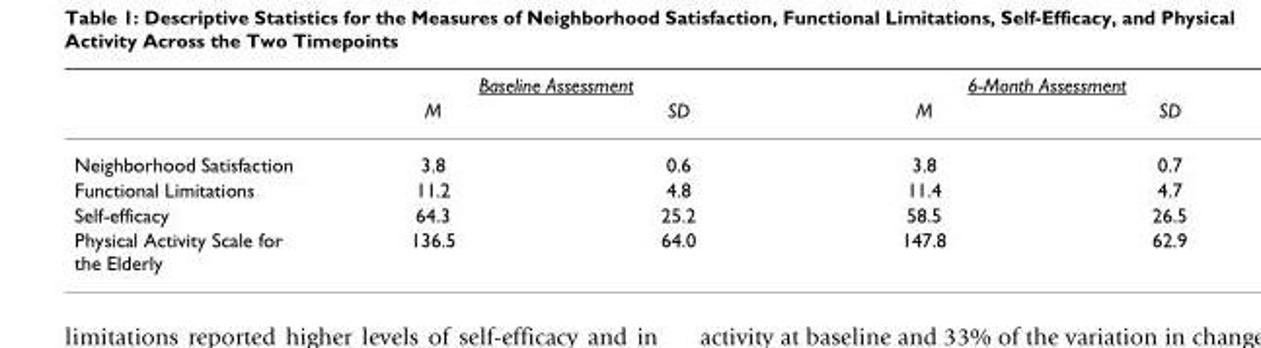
<table><thead><tr><td rowspan="2"></td><td colspan="2">Baseline Assessment</td><td colspan="2">6-Month Assessment</td></tr><tr><td>M</td><td>SD</td><td>M</td><td>SD</td></tr></thead><tbody><tr><td>Neighborhood Satisfaction</td><td>3.8</td><td>0.6</td><td>3.8</td><td>0.7</td></tr><tr><td>Functional Limitations</td><td>11.2</td><td>4.8</td><td>11.4</td><td>4.7</td></tr><tr><td>Self-efficacy</td><td>64.3</td><td>25.2</td><td>58.5</td><td>26.5</td></tr><tr><td>Physical Activity Scale for the Elderly</td><td>136.5</td><td>64.0</td><td>147.8</td><td>62.9</td></tr></tbody></table>